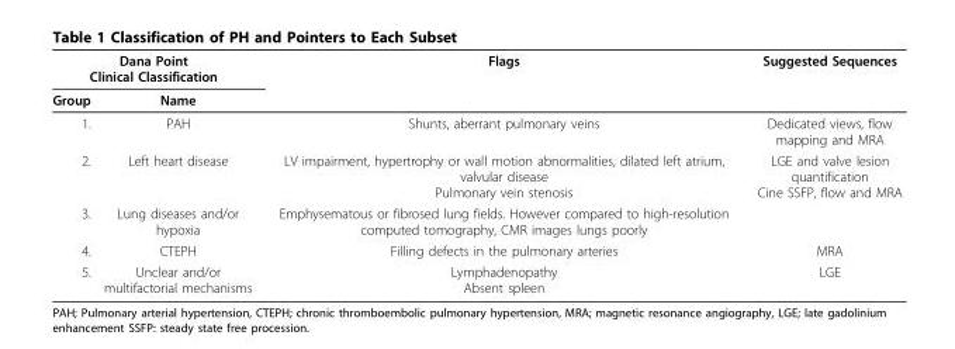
<table><thead><tr><td colspan="2">Dana Point Clinical Classification</td><td rowspan="2">Flags</td><td rowspan="2">Suggested Sequences</td></tr><tr><td>Group</td><td>Name</td></tr></thead><tbody><tr><td>1.</td><td>PAH</td><td>Shunts, aberrant pulmonary veins</td><td>Dedicated views, flow mapping and MRA</td></tr><tr><td>2.</td><td>Left heart disease</td><td>LV impairment, hypertrophy or wall motion abnormalities, dilated left atrium, valvular disease Pulmonary vein stenosis</td><td>LGE and valve lesion quantification Cine SSFP, flow and MRA</td></tr><tr><td>3.</td><td>Lung diseases and/or hypoxia</td><td>Emphysematous or fibrosed lung fields. However compared to high-resolution computed tomography, CMR images lungs poorly</td><td></td></tr><tr><td>4.</td><td>CTEPH</td><td>Filling defects in the pulmonary arteries</td><td>MRA</td></tr><tr><td>5.</td><td>Unclear and/or multifactorial mechanisms</td><td>Lymphadenopathy Absent spleen</td><td>LGE</td></tr></tbody></table>